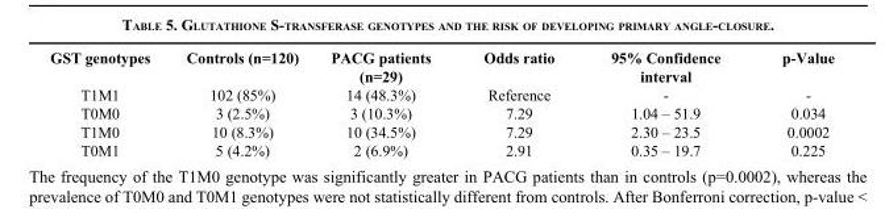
<table><thead><tr><td>GST genotypes</td><td>Controls (n=120)</td><td>PACG patients (n=29)</td><td>Odds ratio</td><td>95% Confidence interval</td><td>p-Value</td></tr></thead><tbody><tr><td>T1M1</td><td>102 (85%)</td><td>14 (48.3%)</td><td>Reference</td><td>-</td><td>-</td></tr><tr><td>T0M0</td><td>3 (2.5%)</td><td>3 (10.3%)</td><td>7.29</td><td>1.04 – 51.9</td><td>0.034</td></tr><tr><td>T1M0</td><td>10 (8.3%)</td><td>10 (34.5%)</td><td>7.29</td><td>2.30 – 23.5</td><td>0.0002</td></tr><tr><td>T0M1</td><td>5 (4.2%)</td><td>2 (6.9%)</td><td>2.91</td><td>0.35 – 19.7</td><td>0.225</td></tr></tbody></table>